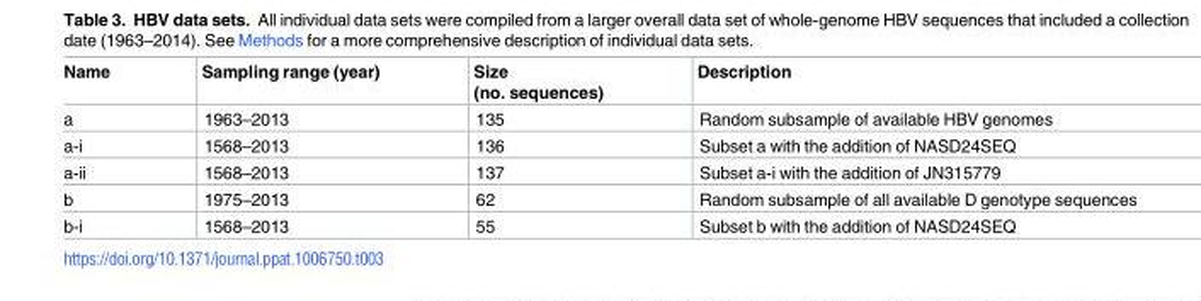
<table><thead><tr><td>Name</td><td>Sampling range (year)</td><td>Size (no. sequences)</td><td>Description</td></tr></thead><tbody><tr><td>a</td><td>1963–2013</td><td>135</td><td>Random subsample of available HBV genomes</td></tr><tr><td>a-i</td><td>1568–2013</td><td>136</td><td>Subset a with the addition of NASD24SEQ</td></tr><tr><td>a-ii</td><td>1568–2013</td><td>137</td><td>Subset a-i with the addition of JN315779</td></tr><tr><td>b</td><td>1975–2013</td><td>62</td><td>Random subsample of all available D genotype sequences</td></tr><tr><td>b-i</td><td>1568–2013</td><td>55</td><td>Subset b with the addition of NASD24SEQ</td></tr></tbody></table>